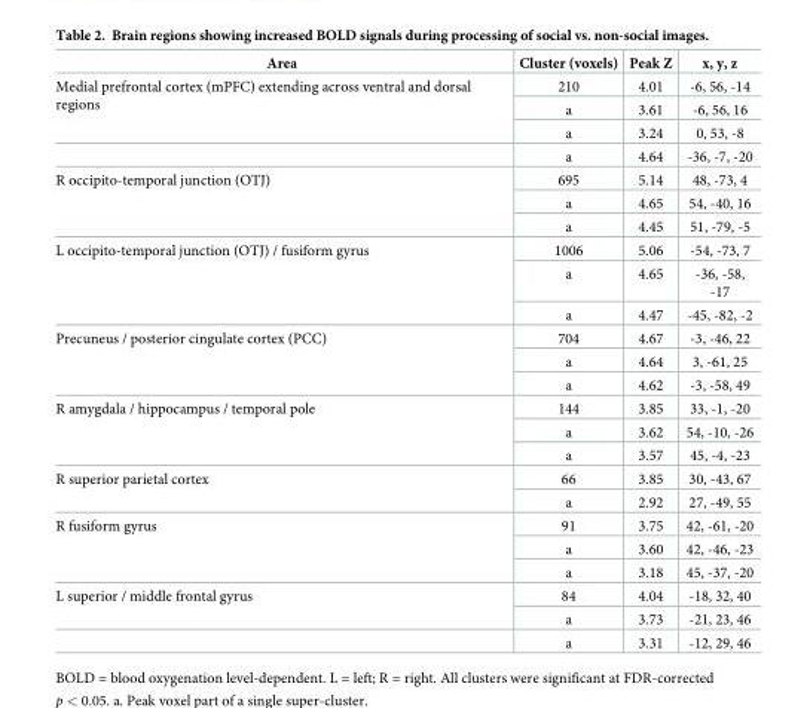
<table><thead><tr><td>Area</td><td>Cluster (voxels)</td><td>Peak Z</td><td>x, y, z</td></tr></thead><tbody><tr><td rowspan="4">Medial prefrontal cortex (mPFC) extending across ventral and dorsal regions</td><td>210</td><td>4.01</td><td>-6, 56, -14</td></tr><tr><td>a</td><td>3.61</td><td>-6, 56, 16</td></tr><tr><td>a</td><td>3.24</td><td>0, 53, -8</td></tr><tr><td>a</td><td>4.64</td><td>-36, -7, -20</td></tr><tr><td rowspan="3">R occipito-temporal junction (OTJ)</td><td>695</td><td>5.14</td><td>48, -73, 4</td></tr><tr><td>a</td><td>4.65</td><td>54, -40, 16</td></tr><tr><td>a</td><td>4.45</td><td>51, -79, -5</td></tr><tr><td rowspan="3">L occipito-temporal junction (OTJ) / fusiform gyrus</td><td>1006</td><td>5.06</td><td>-54, -73, 7</td></tr><tr><td>a</td><td>4.65</td><td>-36, -58, -17</td></tr><tr><td>a</td><td>4.47</td><td>-45, -82, -2</td></tr><tr><td rowspan="3">Precuneus / posterior cingulate cortex (PCC)</td><td>704</td><td>4.67</td><td>-3, -46, 22</td></tr><tr><td>a</td><td>4.64</td><td>3, -61, 25</td></tr><tr><td>a</td><td>4.62</td><td>-3, -58, 49</td></tr><tr><td rowspan="3">R amygdala / hippocampus / temporal pole</td><td>144</td><td>3.85</td><td>33, -1, -20</td></tr><tr><td>a</td><td>3.62</td><td>54, -10, -26</td></tr><tr><td>a</td><td>3.57</td><td>45, -4, -23</td></tr><tr><td rowspan="2">R superior parietal cortex</td><td>66</td><td>3.85</td><td>30, -43, 67</td></tr><tr><td>a</td><td>2.92</td><td>27, -49, 55</td></tr><tr><td rowspan="3">R fusiform gyrus</td><td>91</td><td>3.75</td><td>42, -61, -20</td></tr><tr><td>a</td><td>3.60</td><td>42, -46, -23</td></tr><tr><td>a</td><td>3.18</td><td>45, -37, -20</td></tr><tr><td rowspan="3">L superior / middle frontal gyrus</td><td>84</td><td>4.04</td><td>-18, 32, 40</td></tr><tr><td>a</td><td>3.73</td><td>-21, 23, 46</td></tr><tr><td>a</td><td>3.31</td><td>-12, 29, 46</td></tr></tbody></table>